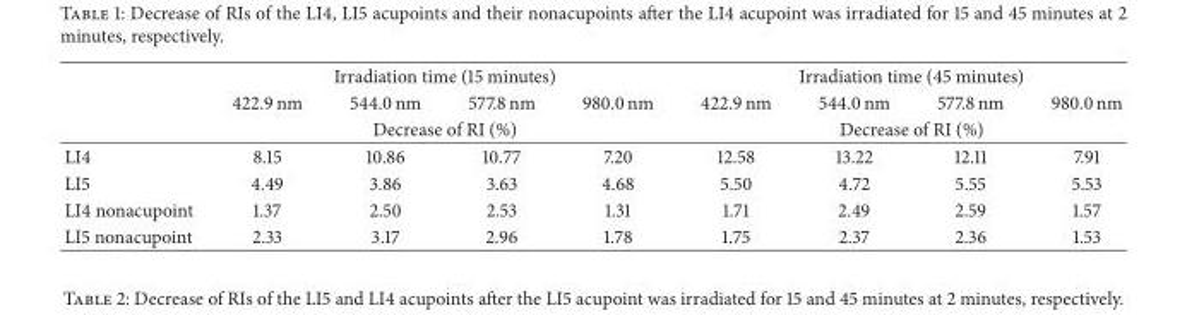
<table><thead><tr><td rowspan="3"></td><td colspan="4">Irradiation time (15 minutes)</td><td colspan="4">Irradiation time (45 minutes)</td></tr><tr><td>422.9 nm</td><td>544.0 nm</td><td>577.8 nm</td><td>980.0 nm</td><td>422.9 nm</td><td>544.0 nm</td><td>577.8 nm</td><td>980.0 nm</td></tr><tr><td colspan="4">Decrease of RI (%)</td><td colspan="4">Decrease of RI (%)</td></tr></thead><tbody><tr><td>LI4</td><td>8.15</td><td>10.86</td><td>10.77</td><td>7.20</td><td>12.58</td><td>13.22</td><td>12.11</td><td>7.91</td></tr><tr><td>LI5</td><td>4.49</td><td>3.86</td><td>3.63</td><td>4.68</td><td>5.50</td><td>4.72</td><td>5.55</td><td>5.53</td></tr><tr><td>LI4 nonacupoint</td><td>1.37</td><td>2.50</td><td>2.53</td><td>1.31</td><td>1.71</td><td>2.49</td><td>2.59</td><td>1.57</td></tr><tr><td>LI5 nonacupoint</td><td>2.33</td><td>3.17</td><td>2.96</td><td>1.78</td><td>1.75</td><td>2.37</td><td>2.36</td><td>1.53</td></tr></tbody></table>